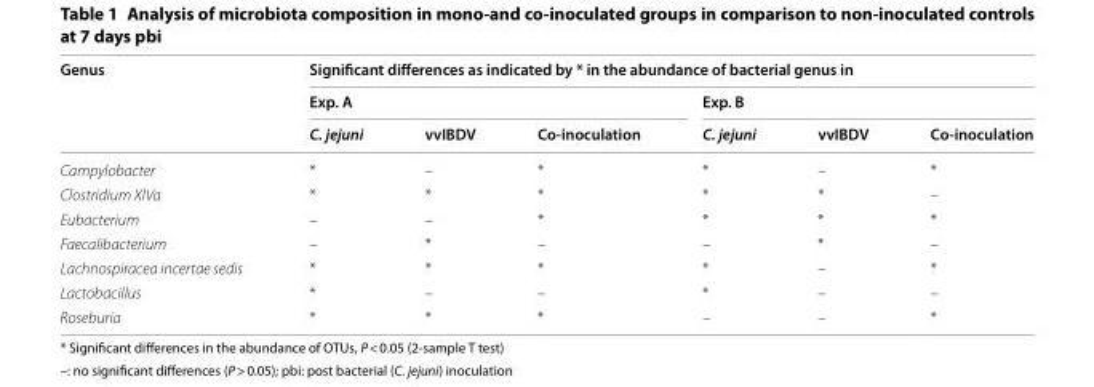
<table><thead><tr><td rowspan="3">Genus</td><td colspan="6">Significant differences as indicated by * in the abundance of bacterial genus in</td></tr><tr><td colspan="3">Exp. A</td><td colspan="3">Exp. B</td></tr><tr><td>C. jejuni</td><td>vvIBDV</td><td>Co‑inoculation</td><td>C. jejuni</td><td>vvIBDV</td><td>Co‑inoculation</td></tr></thead><tbody><tr><td>Campylobacter</td><td>*</td><td>–</td><td>*</td><td>*</td><td>–</td><td>*</td></tr><tr><td>Clostridium XlVa</td><td>*</td><td>*</td><td>*</td><td>*</td><td>*</td><td>–</td></tr><tr><td>Eubacterium</td><td>–</td><td>–</td><td>*</td><td>*</td><td>*</td><td>*</td></tr><tr><td>Faecalibacterium</td><td>–</td><td>*</td><td>–</td><td>–</td><td>*</td><td>–</td></tr><tr><td>Lachnospiracea incertae sedis</td><td>*</td><td>*</td><td>*</td><td>*</td><td>–</td><td>*</td></tr><tr><td>Lactobacillus</td><td>*</td><td>–</td><td>–</td><td>*</td><td>–</td><td>–</td></tr><tr><td>Roseburia</td><td>*</td><td>*</td><td>*</td><td>–</td><td>–</td><td>*</td></tr></tbody></table>